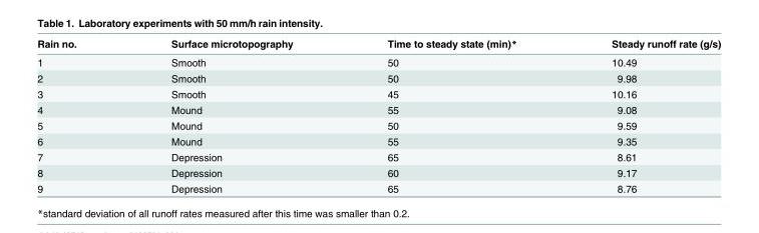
<table><thead><tr><td>Rain no.</td><td>Surface microtopography</td><td>Time to steady state (min)*</td><td>Steady runoff rate (g/s)</td></tr></thead><tbody><tr><td>1</td><td>Smooth</td><td>50</td><td>10.49</td></tr><tr><td>2</td><td>Smooth</td><td>50</td><td>9.98</td></tr><tr><td>3</td><td>Smooth</td><td>45</td><td>10.16</td></tr><tr><td>4</td><td>Mound</td><td>55</td><td>9.08</td></tr><tr><td>5</td><td>Mound</td><td>50</td><td>9.59</td></tr><tr><td>6</td><td>Mound</td><td>55</td><td>9.35</td></tr><tr><td>7</td><td>Depression</td><td>65</td><td>8.61</td></tr><tr><td>8</td><td>Depression</td><td>60</td><td>9.17</td></tr><tr><td>9</td><td>Depression</td><td>65</td><td>8.76</td></tr></tbody></table>